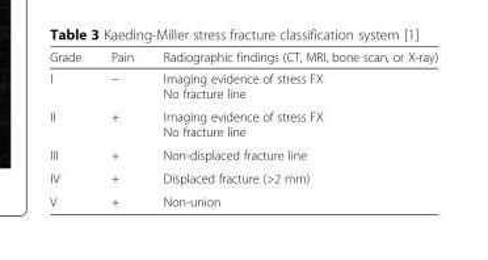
<table><thead><tr><td>Grade</td><td>Pain</td><td>Radiographic findings (CT, MRI, bone scan, or X-ray)</td></tr></thead><tbody><tr><td>I</td><td>−</td><td>Imaging evidence of stress FX No fracture line</td></tr><tr><td>II</td><td>+</td><td>Imaging evidence of stress FX No fracture line</td></tr><tr><td>III</td><td>+</td><td>Non-displaced fracture line</td></tr><tr><td>IV</td><td>+</td><td>Displaced fracture (&gt;2 mm)</td></tr><tr><td>V</td><td>+</td><td>Non-union</td></tr></tbody></table>